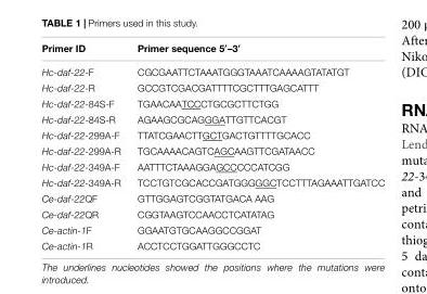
<table><thead><tr><td>Primer ID</td><td>Primer sequence 5′–3′</td></tr></thead><tbody><tr><td>Hc-daf-22-F</td><td>CGCGAATTCTAAATGGGTAAATCAAAAGTATATGT</td></tr><tr><td>Hc-daf-22-R</td><td>GCCGTCGACGATTTTCGCTTTGAGCATTT</td></tr><tr><td>Hc-daf-22-84S-F</td><td>TGAACAATCCCTGCGCTTCTGG</td></tr><tr><td>Hc-daf-22-84S-R</td><td>AGAAGCGCAGGGATTGTTCACGT</td></tr><tr><td>Hc-daf-22-299A-F</td><td>TTATCGAACTTGCTGACTGTTTTGCACC</td></tr><tr><td>Hc-daf-22-299A-R</td><td>TGCAAAACAGTCAGCAAGTTCGATAACC</td></tr><tr><td>Hc-daf-22-349A-F</td><td>AATTTCTAAAGGAGCCCCCATCGG</td></tr><tr><td>Hc-daf-22-349A-R</td><td>TCCTGTCGCACCGATGGGGGCTCCTTTAGAAATTGATCC</td></tr><tr><td>Ce-daf-22QF</td><td>GTTGGAGTCGGTATGACA AAG</td></tr><tr><td>Ce-daf-22QR</td><td>CGGTAAGTCCAACCTCATATAG</td></tr><tr><td>Ce-actin-1F</td><td>GGAATGTGCAAGGCCGGAT</td></tr><tr><td>Ce-actin-1R</td><td>ACCTCCTGGATTGGGCCTC</td></tr></tbody></table>